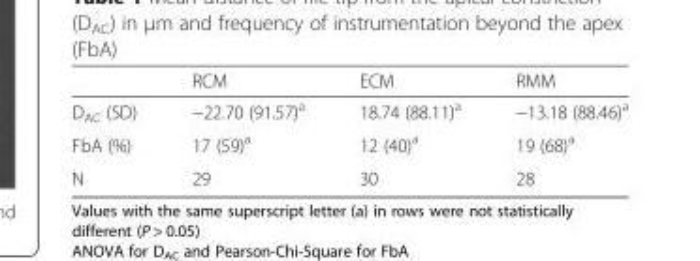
<table><thead><tr><td></td><td>RCM</td><td>ECM</td><td>RMM</td></tr></thead><tbody><tr><td>D<sub>AC</sub> (SD)</td><td>−22.70 (91.57)<sup>a</sup></td><td>18.74 (88.11)<sup>a</sup></td><td>−13.18 (88.46)<sup>a</sup></td></tr><tr><td>FbA (%)</td><td>17 (59)<sup>a</sup></td><td>12 (40)<sup>a</sup></td><td>19 (68)<sup>a</sup></td></tr><tr><td>N</td><td>29</td><td>30</td><td>28</td></tr></tbody></table>